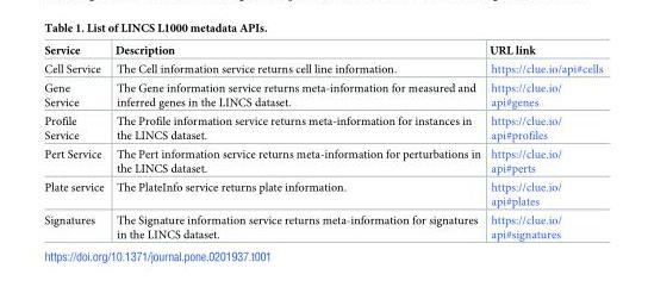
<table><thead><tr><td>Service</td><td>Description</td><td>URL link</td></tr></thead><tbody><tr><td>Cell Service</td><td>The Cell information service returns cell line information.</td><td>https://clue.io/api#cells</td></tr><tr><td>Gene Service</td><td>The Gene information service returns meta-information for measured and inferred genes in the LINCS dataset.</td><td>https://clue.io/ api#genes</td></tr><tr><td>Profile Service</td><td>The Profile information service returns meta-information for instances in the LINCS dataset.</td><td>https://clue.io/ api#profiles</td></tr><tr><td>Pert Service</td><td>The Pert information service returns meta-information for perturbations in the LINCS dataset.</td><td>https://clue.io/ api#perts</td></tr><tr><td>Plate service</td><td>The PlateInfo service returns plate information.</td><td>https://clue.io/ api#plates</td></tr><tr><td>Signatures</td><td>The Signature information service returns meta-information for signatures in the LINCS dataset.</td><td>https://clue.io/ api#signatures</td></tr></tbody></table>